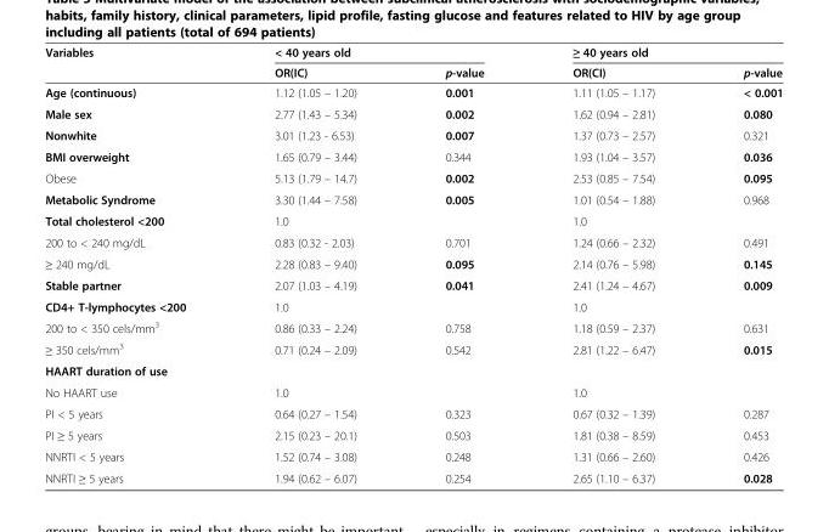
<table><thead><tr><td rowspan="2">Variables</td><td colspan="2">&lt; 40 years old</td><td colspan="2">≥ 40 years old</td></tr><tr><td>OR(IC)</td><td>p-value</td><td>OR(CI)</td><td>p-value</td></tr></thead><tbody><tr><td>Age (continuous)</td><td>1.12 (1.05 – 1.20)</td><td>0.001</td><td>1.11 (1.05 – 1.17)</td><td>&lt; 0.001</td></tr><tr><td>Male sex</td><td>2.77 (1.43 – 5.34)</td><td>0.002</td><td>1.62 (0.94 – 2.81)</td><td>0.080</td></tr><tr><td>Nonwhite</td><td>3.01 (1.23 - 6.53)</td><td>0.007</td><td>1.37 (0.73 – 2.57)</td><td>0.321</td></tr><tr><td>BMI overweight</td><td>1.65 (0.79 – 3.44)</td><td>0.344</td><td>1.93 (1.04 – 3.57)</td><td>0.036</td></tr><tr><td>Obese</td><td>5.13 (1.79 – 14.7)</td><td>0.002</td><td>2.53 (0.85 – 7.54)</td><td>0.095</td></tr><tr><td>Metabolic Syndrome</td><td>3.30 (1.44 – 7.58)</td><td>0.005</td><td>1.01 (0.54 – 1.88)</td><td>0.968</td></tr><tr><td>Total cholesterol &lt;200</td><td>1.0</td><td></td><td>1.0</td><td></td></tr><tr><td>200 to &lt; 240 mg/dL</td><td>0.83 (0.32 - 2.03)</td><td>0.701</td><td>1.24 (0.66 – 2.32)</td><td>0.491</td></tr><tr><td>≥ 240 mg/dL</td><td>2.28 (0.83 – 9.40)</td><td>0.095</td><td>2.14 (0.76 – 5.98)</td><td>0.145</td></tr><tr><td>Stable partner</td><td>2.07 (1.03 – 4.19)</td><td>0.041</td><td>2.41 (1.24 – 4.67)</td><td>0.009</td></tr><tr><td>CD4+ T-lymphocytes &lt;200</td><td>1.0</td><td></td><td>1.0</td><td></td></tr><tr><td>200 to &lt; 350 cels/mm<sup>3</sup></td><td>0.86 (0.33 – 2.24)</td><td>0.758</td><td>1.18 (0.59 – 2.37)</td><td>0.631</td></tr><tr><td>≥ 350 cels/mm<sup>3</sup></td><td>0.71 (0.24 – 2.09)</td><td>0.542</td><td>2.81 (1.22 – 6.47)</td><td>0.015</td></tr><tr><td colspan="5">HAART duration of use</td></tr><tr><td>No HAART use</td><td>1.0</td><td></td><td>1.0</td><td></td></tr><tr><td>PI &lt; 5 years</td><td>0.64 (0.27 – 1.54)</td><td>0.323</td><td>0.67 (0.32 – 1.39)</td><td>0.287</td></tr><tr><td>PI ≥ 5 years</td><td>2.15 (0.23 – 20.1)</td><td>0.503</td><td>1.81 (0.38 – 8.59)</td><td>0.453</td></tr><tr><td>NNRTI &lt; 5 years</td><td>1.52 (0.74 – 3.08)</td><td>0.248</td><td>1.31 (0.66 – 2.60)</td><td>0.426</td></tr><tr><td>NNRTI ≥ 5 years</td><td>1.94 (0.62 – 6.07)</td><td>0.254</td><td>2.65 (1.10 – 6.37)</td><td>0.028</td></tr></tbody></table>